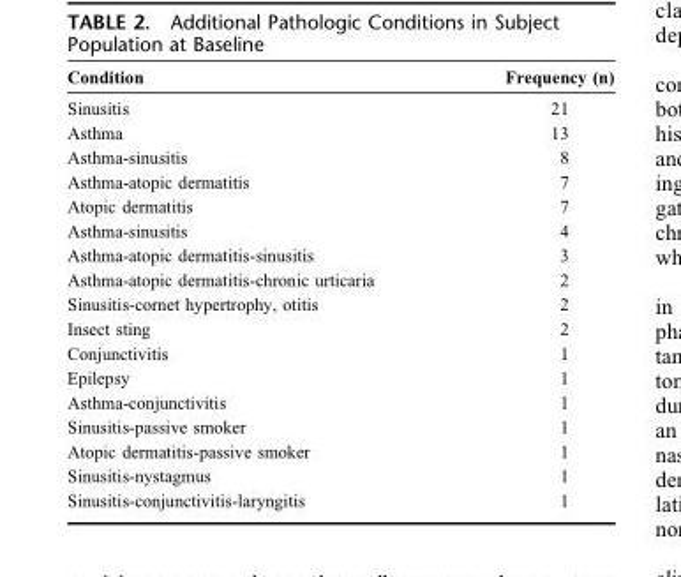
<table><thead><tr><td>Condition</td><td>Frequency (n)</td></tr></thead><tbody><tr><td>Sinusitis</td><td>21</td></tr><tr><td>Asthma</td><td>13</td></tr><tr><td>Asthma-sinusitis</td><td>8</td></tr><tr><td>Asthma-atopic dermatitis</td><td>7</td></tr><tr><td>Atopic dermatitis</td><td>7</td></tr><tr><td>Asthma-sinusitis</td><td>4</td></tr><tr><td>Asthma-atopic dermatitis-sinusitis</td><td>3</td></tr><tr><td>Asthma-atopic dermatitis-chronic urticaria</td><td>2</td></tr><tr><td>Sinusitis-cornet hypertrophy, otitis</td><td>2</td></tr><tr><td>Insect sting</td><td>2</td></tr><tr><td>Conjunctivitis</td><td>1</td></tr><tr><td>Epilepsy</td><td>1</td></tr><tr><td>Asthma-conjunctivitis</td><td>1</td></tr><tr><td>Sinusitis-passive smoker</td><td>1</td></tr><tr><td>Atopic dermatitis-passive smoker</td><td>1</td></tr><tr><td>Sinusitis-nystagmus</td><td>1</td></tr><tr><td>Sinusitis-conjunctivitis-laryngitis</td><td>1</td></tr></tbody></table>